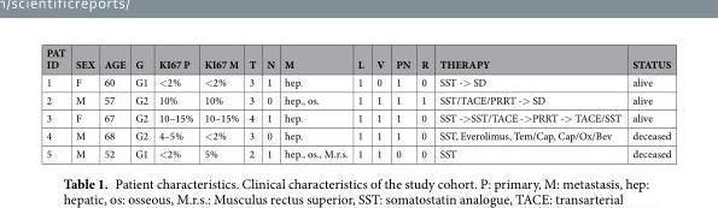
<table><thead><tr><td>PAT ID</td><td>SEX</td><td>AGE</td><td>G</td><td>KI67 P</td><td>KI67 M</td><td>T</td><td>N</td><td>M</td><td>L</td><td>V</td><td>PN</td><td>R</td><td>THERAPY</td><td>STATUS</td></tr></thead><tbody><tr><td>1</td><td>F</td><td>60</td><td>G1</td><td>&lt;2%</td><td>&lt;2%</td><td>3</td><td>1</td><td>hep.</td><td>1</td><td>0</td><td>1</td><td>0</td><td>SST -&gt; SD</td><td>alive</td></tr><tr><td>2</td><td>M</td><td>57</td><td>G2</td><td>10%</td><td>10%</td><td>3</td><td>0</td><td>hep., os.</td><td>1</td><td>1</td><td>1</td><td>1</td><td>SST/TACE/PRRT -&gt; SD</td><td>alive</td></tr><tr><td>3</td><td>F</td><td>67</td><td>G2</td><td>10–15%</td><td>10–15%</td><td>4</td><td>1</td><td>hep.</td><td>1</td><td>1</td><td>1</td><td>0</td><td>SST -&gt;SST/TACE -&gt;PRRT -&gt; TACE/SST</td><td>alive</td></tr><tr><td>4</td><td>M</td><td>68</td><td>G2</td><td>4–5%</td><td>&lt;2%</td><td>3</td><td>0</td><td>hep.</td><td>1</td><td>1</td><td>1</td><td>0</td><td>SST, Everolimus, Tem/Cap, Cap/Ox/Bev</td><td>deceased</td></tr><tr><td>5</td><td>M</td><td>52</td><td>G1</td><td>&lt;2%</td><td>5%</td><td>2</td><td>1</td><td>hep., os., M.r.s.</td><td>1</td><td>1</td><td>0</td><td>0</td><td>SST</td><td>deceased</td></tr></tbody></table>